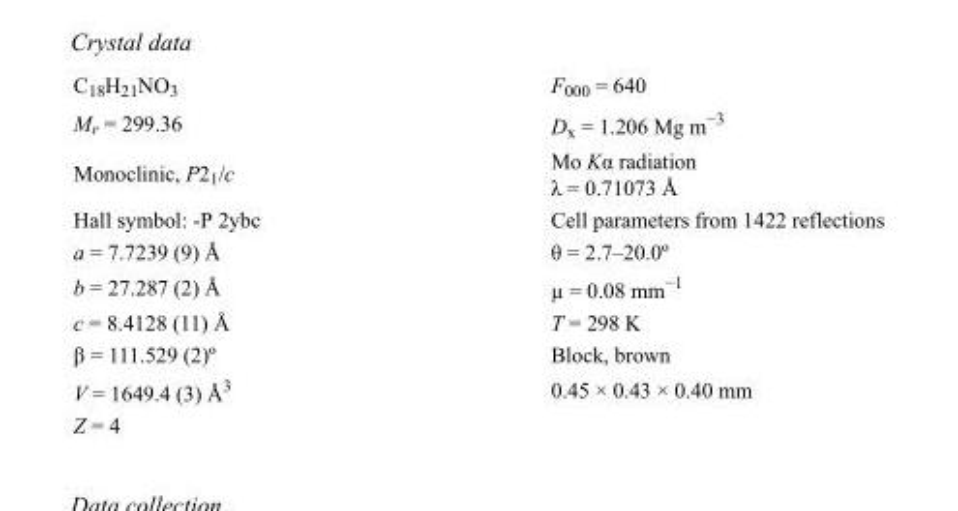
<table><tbody><tr><td>C<sub>18</sub>H<sub>21</sub>NO<sub>3</sub></td><td>F000 = 640</td></tr><tr><td>M<sub>r</sub> = 299.36</td><td>D<sub>x</sub> = 1.206 Mg m<sup>−3</sup></td></tr><tr><td>Monoclinic, P2<sub>1</sub>/c</td><td>Mo Kα radiation λ = 0.71073 Å</td></tr><tr><td>Hall symbol: -P 2ybc</td><td>Cell parameters from 1422 reflections</td></tr><tr><td>a = 7.7239 (9) Å</td><td>θ = 2.7–20.0º</td></tr><tr><td>b = 27.287 (2) Å</td><td>µ = 0.08 mm<sup>−1</sup></td></tr><tr><td>c = 8.4128 (11) Å</td><td>T = 298 K</td></tr><tr><td>β = 111.529 (2)º</td><td>Block, brown</td></tr><tr><td>V = 1649.4 (3) Å<sup>3</sup></td><td>0.45 × 0.43 × 0.40 mm</td></tr><tr><td>Z = 4</td><td></td></tr></tbody></table>